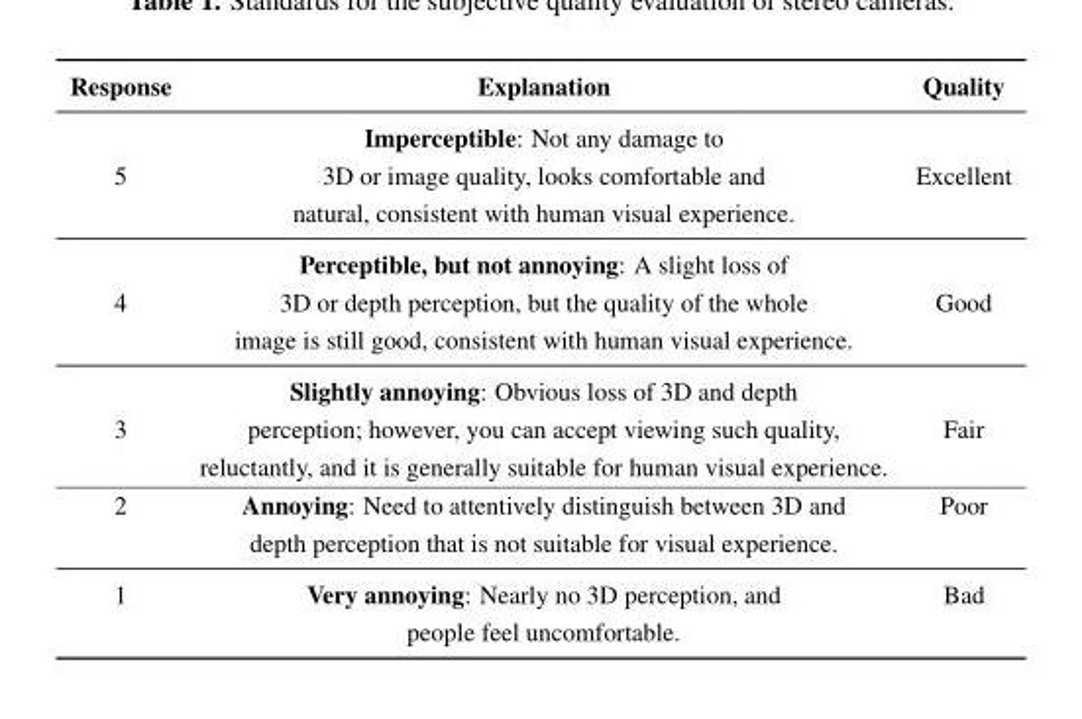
<table><thead><tr><td>Response</td><td>Explanation</td><td>Quality</td></tr></thead><tbody><tr><td></td><td>Imperceptible: Not any damage to</td><td></td></tr><tr><td rowspan="3">5</td><td>3D or image quality, looks comfortable and</td><td>Excellent</td></tr><tr><td>natural, consistent with human visual experience.</td><td></td></tr><tr><td>Perceptible, but not annoying: A slight loss of</td><td></td></tr><tr><td rowspan="3">4</td><td>3D or depth perception, but the quality of the whole</td><td>Good</td></tr><tr><td>image is still good, consistent with human visual experience.</td><td></td></tr><tr><td>Slightly annoying: Obvious loss of 3D and depth</td><td></td></tr><tr><td rowspan="2">3</td><td>perception; however, you can accept viewing such quality,</td><td>Fair</td></tr><tr><td>reluctantly, and it is generally suitable for human visual experience.</td><td></td></tr><tr><td rowspan="2">2</td><td>Annoying: Need to attentively distinguish between 3D and</td><td>Poor</td></tr><tr><td>depth perception that is not suitable for visual experience.</td><td></td></tr><tr><td rowspan="2">1</td><td>Very annoying: Nearly no 3D perception, and</td><td>Bad</td></tr><tr><td>people feel uncomfortable.</td><td></td></tr></tbody></table>